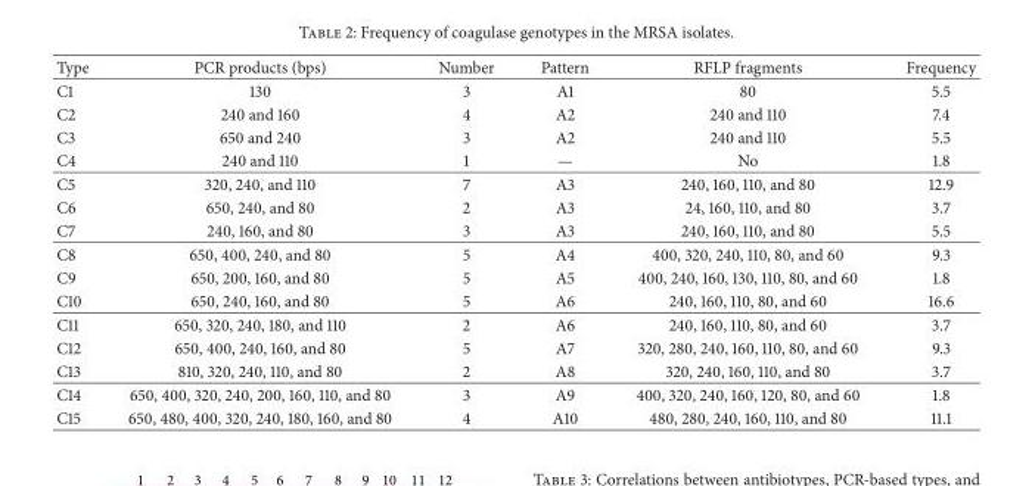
<table><thead><tr><td>Type</td><td>PCR products (bps)</td><td>Number</td><td>Pattern</td><td>RFLP fragments</td><td>Frequency</td></tr></thead><tbody><tr><td>C1</td><td>130</td><td>3</td><td>A1</td><td>80</td><td>5.5</td></tr><tr><td>C2</td><td>240 and 160</td><td>4</td><td>A2</td><td>240 and 110</td><td>7.4</td></tr><tr><td>C3</td><td>650 and 240</td><td>3</td><td>A2</td><td>240 and 110</td><td>5.5</td></tr><tr><td>C4</td><td>240 and 110</td><td>1</td><td>—</td><td>No</td><td>1.8</td></tr><tr><td>C5</td><td>320, 240, and 110</td><td>7</td><td>A3</td><td>240, 160, 110, and 80</td><td>12.9</td></tr><tr><td>C6</td><td>650, 240, and 80</td><td>2</td><td>A3</td><td>24, 160, 110, and 80</td><td>3.7</td></tr><tr><td>C7</td><td>240, 160, and 80</td><td>3</td><td>A3</td><td>240, 160, 110, and 80</td><td>5.5</td></tr><tr><td>C8</td><td>650, 400, 240, and 80</td><td>5</td><td>A4</td><td>400, 320, 240, 110, 80, and 60</td><td>9.3</td></tr><tr><td>C9</td><td>650, 200, 160, and 80</td><td>5</td><td>A5</td><td>400, 240, 160, 130, 110, 80, and 60</td><td>1.8</td></tr><tr><td>C10</td><td>650, 240, 160, and 80</td><td>5</td><td>A6</td><td>240, 160, 110, 80, and 60</td><td>16.6</td></tr><tr><td>C11</td><td>650, 320, 240, 180, and 110</td><td>2</td><td>A6</td><td>240, 160, 110, 80, and 60</td><td>3.7</td></tr><tr><td>C12</td><td>650, 400, 240, 160, and 80</td><td>5</td><td>A7</td><td>320, 280, 240, 160, 110, 80, and 60</td><td>9.3</td></tr><tr><td>C13</td><td>810, 320, 240, 110, and 80</td><td>2</td><td>A8</td><td>320, 240, 160, 110, and 80</td><td>3.7</td></tr><tr><td>C14</td><td>650, 400, 320, 240, 200, 160, 110, and 80</td><td>3</td><td>A9</td><td>400, 320, 240, 160, 120, 80, and 60</td><td>1.8</td></tr><tr><td>C15</td><td>650, 480, 400, 320, 240, 180, 160, and 80</td><td>4</td><td>A10</td><td>480, 280, 240, 160, 110, and 80</td><td>11.1</td></tr></tbody></table>